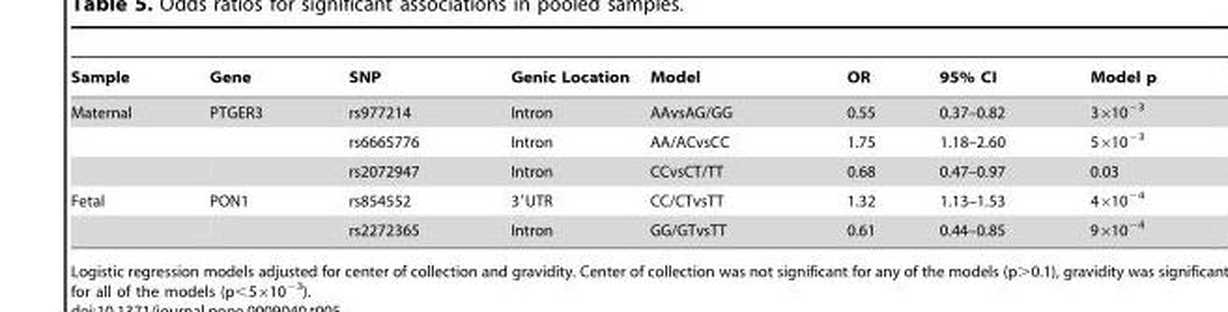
<table><thead><tr><td>Sample</td><td>Gene</td><td>SNP</td><td>Genic Location</td><td>Model</td><td>OR</td><td>95% CI</td><td>Model p</td></tr></thead><tbody><tr><td rowspan="3">Maternal</td><td>PTGER3</td><td>rs977214</td><td>Intron</td><td>AAvsAG/GG</td><td>0.55</td><td>0.37–0.82</td><td>3×10<sup>−3</sup></td></tr><tr><td></td><td>rs6665776</td><td>Intron</td><td>AA/ACvsCC</td><td>1.75</td><td>1.18–2.60</td><td>5×10<sup>−3</sup></td></tr><tr><td></td><td>rs2072947</td><td>Intron</td><td>CCvsCT/TT</td><td>0.68</td><td>0.47–0.97</td><td>0.03</td></tr><tr><td rowspan="2">Fetal</td><td>PON1</td><td>rs854552</td><td>3′UTR</td><td>CC/CTvsTT</td><td>1.32</td><td>1.13–1.53</td><td>4×10<sup>−4</sup></td></tr><tr><td></td><td>rs2272365</td><td>Intron</td><td>GG/GTvsTT</td><td>0.61</td><td>0.44–0.85</td><td>9×10<sup>−4</sup></td></tr></tbody></table>